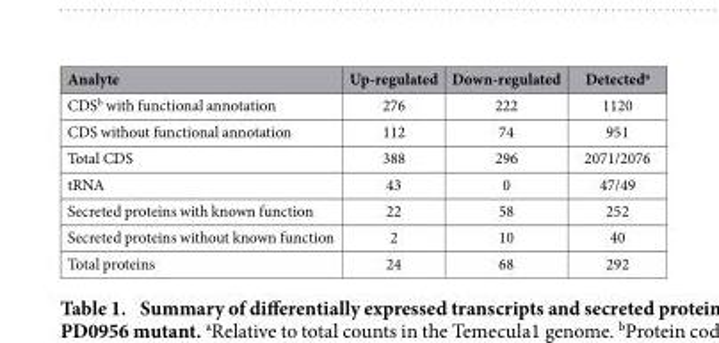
<table><thead><tr><td>Analyte</td><td>Up-regulated</td><td>Down-regulated</td><td>Detected<sup>a</sup></td></tr></thead><tbody><tr><td>CDS<sup>b</sup> with functional annotation</td><td>276</td><td>222</td><td>1120</td></tr><tr><td>CDS without functional annotation</td><td>112</td><td>74</td><td>951</td></tr><tr><td>Total CDS</td><td>388</td><td>296</td><td>2071/2076</td></tr><tr><td>tRNA</td><td>43</td><td>0</td><td>47/49</td></tr><tr><td>Secreted proteins with known function</td><td>22</td><td>58</td><td>252</td></tr><tr><td>Secreted proteins without known function</td><td>2</td><td>10</td><td>40</td></tr><tr><td>Total proteins</td><td>24</td><td>68</td><td>292</td></tr></tbody></table>